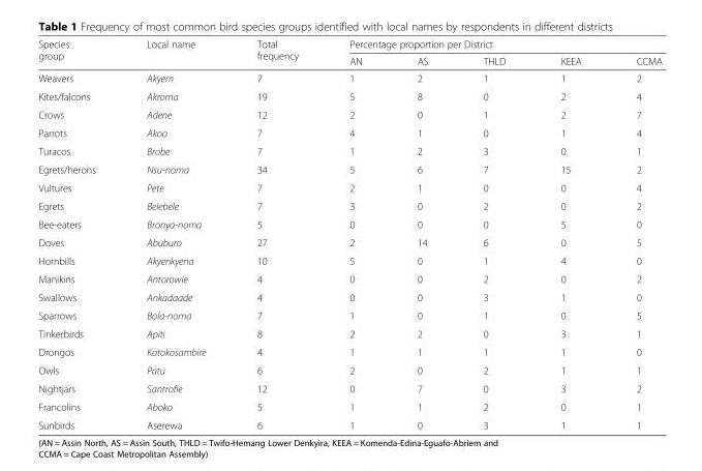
<table><thead><tr><td rowspan="2">Species group</td><td rowspan="2">Local name</td><td rowspan="2">Total frequency</td><td colspan="5">Percentage proportion per District</td></tr><tr><td>AN</td><td>AS</td><td>THLD</td><td>KEEA</td><td>CCMA</td></tr></thead><tbody><tr><td>Weavers</td><td>Akyem</td><td>7</td><td>1</td><td>2</td><td>1</td><td>1</td><td>2</td></tr><tr><td>Kites/falcons</td><td>Akroma</td><td>19</td><td>5</td><td>8</td><td>0</td><td>2</td><td>4</td></tr><tr><td>Crows</td><td>Adene</td><td>12</td><td>2</td><td>0</td><td>1</td><td>2</td><td>7</td></tr><tr><td>Parrots</td><td>Akoo</td><td>7</td><td>4</td><td>1</td><td>0</td><td>1</td><td>4</td></tr><tr><td>Turacos</td><td>Brobe</td><td>7</td><td>1</td><td>2</td><td>3</td><td>0</td><td>1</td></tr><tr><td>Egrets/herons</td><td>Nsu-noma</td><td>34</td><td>5</td><td>6</td><td>7</td><td>15</td><td>2</td></tr><tr><td>Vultures</td><td>Pete</td><td>7</td><td>2</td><td>1</td><td>0</td><td>0</td><td>4</td></tr><tr><td>Egrets</td><td>Belebele</td><td>7</td><td>3</td><td>0</td><td>2</td><td>0</td><td>2</td></tr><tr><td>Bee-eaters</td><td>Bronya-noma</td><td>5</td><td>0</td><td>0</td><td>0</td><td>5</td><td>0</td></tr><tr><td>Doves</td><td>Abuburo</td><td>27</td><td>2</td><td>14</td><td>6</td><td>0</td><td>5</td></tr><tr><td>Hornbills</td><td>Akyenkyena</td><td>10</td><td>5</td><td>0</td><td>1</td><td>4</td><td>0</td></tr><tr><td>Manikins</td><td>Antorowie</td><td>4</td><td>0</td><td>0</td><td>2</td><td>0</td><td>2</td></tr><tr><td>Swallows</td><td>Ankadaade</td><td>4</td><td>0</td><td>0</td><td>3</td><td>1</td><td>0</td></tr><tr><td>Sparrows</td><td>Bola-noma</td><td>7</td><td>1</td><td>0</td><td>1</td><td>0</td><td>5</td></tr><tr><td>Tinkerbirds</td><td>Apiti</td><td>8</td><td>2</td><td>2</td><td>0</td><td>3</td><td>1</td></tr><tr><td>Drongos</td><td>Kotokosambire</td><td>4</td><td>1</td><td>1</td><td>1</td><td>1</td><td>0</td></tr><tr><td>Owls</td><td>Patu</td><td>6</td><td>2</td><td>0</td><td>2</td><td>1</td><td>1</td></tr><tr><td>Nightjars</td><td>Santrofie</td><td>12</td><td>0</td><td>7</td><td>0</td><td>3</td><td>2</td></tr><tr><td>Francolins</td><td>Aboko</td><td>5</td><td>1</td><td>1</td><td>2</td><td>0</td><td>1</td></tr><tr><td>Sunbirds</td><td>Aserewa</td><td>6</td><td>1</td><td>0</td><td>3</td><td>1</td><td>1</td></tr></tbody></table>